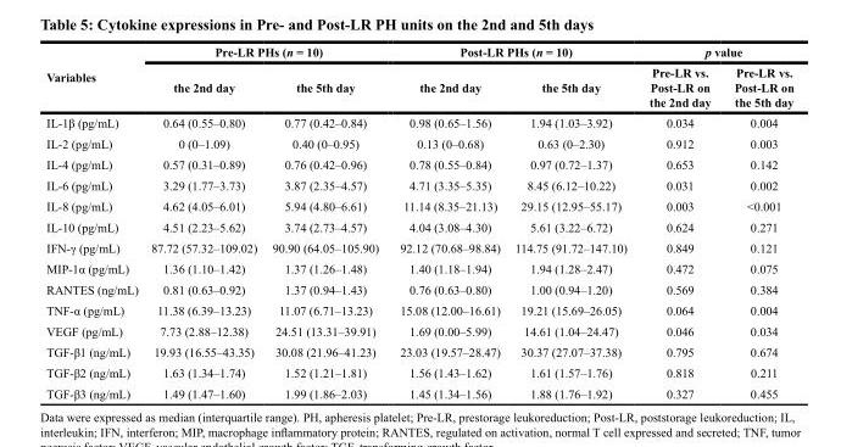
<table><thead><tr><td rowspan="2">Variables</td><td colspan="2">Pre-LR PHs (n = 10)</td><td colspan="2">Post-LR PHs (n = 10)</td><td colspan="2">p value</td></tr><tr><td>the 2nd day</td><td>the 5th day</td><td>the 2nd day</td><td>the 5th day</td><td>Pre-LR vs. Post-LR on the 2nd day</td><td>Pre-LR vs. Post-LR on the 5th day</td></tr></thead><tbody><tr><td>IL-1β (pg/mL)</td><td>0.64 (0.55–0.80)</td><td>0.77 (0.42–0.84)</td><td>0.98 (0.65–1.56)</td><td>1.94 (1.03–3.92)</td><td>0.034</td><td>0.004</td></tr><tr><td>IL-2 (pg/mL)</td><td>0 (0–1.09)</td><td>0.40 (0–0.95)</td><td>0.13 (0–0.68)</td><td>0.63 (0–2.30)</td><td>0.912</td><td>0.003</td></tr><tr><td>IL-4 (pg/mL)</td><td>0.57 (0.31–0.89)</td><td>0.76 (0.42–0.96)</td><td>0.78 (0.55–0.84)</td><td>0.97 (0.72–1.37)</td><td>0.653</td><td>0.142</td></tr><tr><td>IL-6 (pg/mL)</td><td>3.29 (1.77–3.73)</td><td>3.87 (2.35–4.57)</td><td>4.71 (3.35–5.35)</td><td>8.45 (6.12–10.22)</td><td>0.031</td><td>0.002</td></tr><tr><td>IL-8 (pg/mL)</td><td>4.62 (4.05–6.01)</td><td>5.94 (4.80–6.61)</td><td>11.14 (8.35–21.13)</td><td>29.15 (12.95–55.17)</td><td>0.003</td><td>&lt;0.001</td></tr><tr><td>IL-10 (pg/mL)</td><td>4.51 (2.23–5.62)</td><td>3.74 (2.73–4.57)</td><td>4.04 (3.08–4.30)</td><td>5.61 (3.22–6.72)</td><td>0.624</td><td>0.271</td></tr><tr><td>IFN-γ (pg/mL)</td><td>87.72 (57.32–109.02)</td><td>90.90 (64.05–105.90)</td><td>92.12 (70.68–98.84)</td><td>114.75 (91.72–147.10)</td><td>0.849</td><td>0.121</td></tr><tr><td>MIP-1α (pg/mL)</td><td>1.36 (1.10–1.42)</td><td>1.37 (1.26–1.48)</td><td>1.40 (1.18–1.94)</td><td>1.94 (1.28–2.47)</td><td>0.472</td><td>0.075</td></tr><tr><td>RANTES (ng/mL)</td><td>0.81 (0.63–0.92)</td><td>1.37 (0.94–1.43)</td><td>0.76 (0.63–0.80)</td><td>1.00 (0.94–1.20)</td><td>0.569</td><td>0.384</td></tr><tr><td>TNF-α (pg/mL)</td><td>11.38 (6.39–13.23)</td><td>11.07 (6.71–13.23)</td><td>15.08 (12.00–16.61)</td><td>19.21 (15.69–26.05)</td><td>0.064</td><td>0.004</td></tr><tr><td>VEGF (pg/mL)</td><td>7.73 (2.88–12.38)</td><td>24.51 (13.31–39.91)</td><td>1.69 (0.00–5.99)</td><td>14.61 (1.04–24.47)</td><td>0.046</td><td>0.034</td></tr><tr><td>TGF-β1 (ng/mL)</td><td>19.93 (16.55–43.35)</td><td>30.08 (21.96–41.23)</td><td>23.03 (19.57–28.47)</td><td>30.37 (27.07–37.38)</td><td>0.795</td><td>0.674</td></tr><tr><td>TGF-β2 (ng/mL)</td><td>1.63 (1.34–1.74)</td><td>1.52 (1.21–1.81)</td><td>1.56 (1.43–1.62)</td><td>1.61 (1.57–1.76)</td><td>0.818</td><td>0.211</td></tr><tr><td>TGF-β3 (ng/mL)</td><td>1.49 (1.47–1.60)</td><td>1.99 (1.86–2.03)</td><td>1.45 (1.34–1.56)</td><td>1.88 (1.76–1.92)</td><td>0.327</td><td>0.455</td></tr></tbody></table>